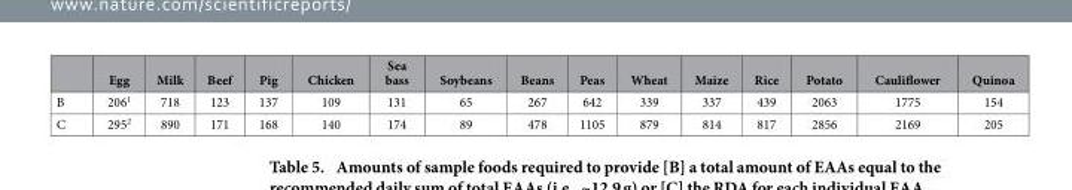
<table><thead><tr><td></td><td>Egg</td><td>Milk</td><td>Beef</td><td>Pig</td><td>Chicken</td><td>Sea bass</td><td>Soybeans</td><td>Beans</td><td>Peas</td><td>Wheat</td><td>Maize</td><td>Rice</td><td>Potato</td><td>Cauliflower</td><td>Quinoa</td></tr></thead><tbody><tr><td>B</td><td>206<sup>1</sup></td><td>718</td><td>123</td><td>137</td><td>109</td><td>131</td><td>65</td><td>267</td><td>642</td><td>339</td><td>337</td><td>439</td><td>2063</td><td>1775</td><td>154</td></tr><tr><td>C</td><td>295<sup>2</sup></td><td>890</td><td>171</td><td>168</td><td>140</td><td>174</td><td>89</td><td>478</td><td>1105</td><td>879</td><td>814</td><td>817</td><td>2856</td><td>2169</td><td>205</td></tr></tbody></table>